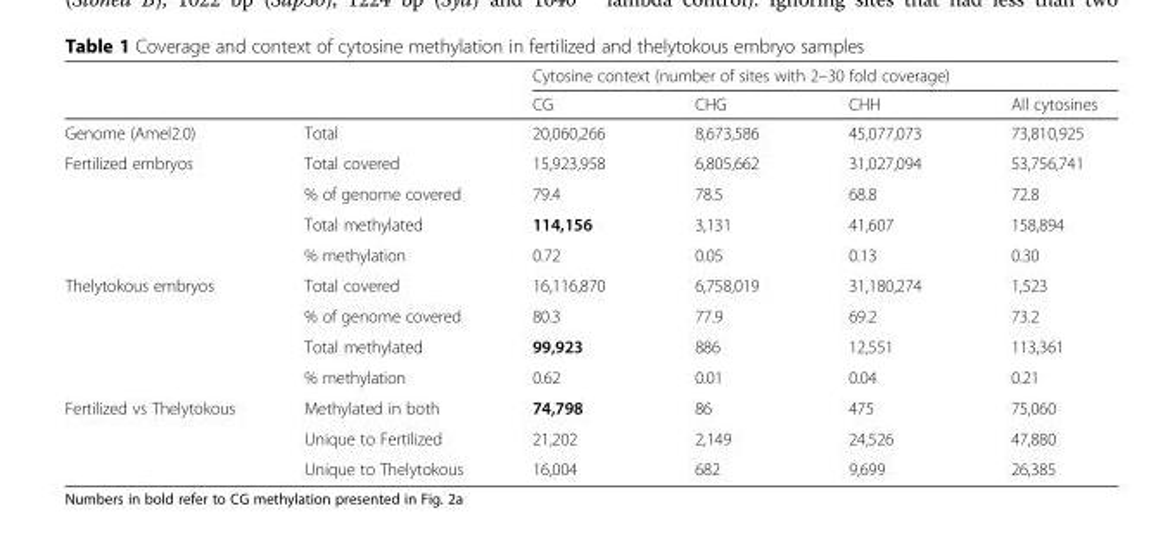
<table><thead><tr><td rowspan="2"></td><td rowspan="2"></td><td colspan="4">Cytosine context (number of sites with 2–30 fold coverage)</td></tr><tr><td>CG</td><td>CHG</td><td>CHH</td><td>All cytosines</td></tr></thead><tbody><tr><td>Genome (Amel2.0)</td><td>Total</td><td>20,060,266</td><td>8,673,586</td><td>45,077,073</td><td>73,810,925</td></tr><tr><td rowspan="4">Fertilized embryos</td><td>Total covered</td><td>15,923,958</td><td>6,805,662</td><td>31,027,094</td><td>53,756,741</td></tr><tr><td>% of genome covered</td><td>79.4</td><td>78.5</td><td>68.8</td><td>72.8</td></tr><tr><td>Total methylated</td><td>114,156</td><td>3,131</td><td>41,607</td><td>158,894</td></tr><tr><td>% methylation</td><td>0.72</td><td>0.05</td><td>0.13</td><td>0.30</td></tr><tr><td rowspan="4">Thelytokous embryos</td><td>Total covered</td><td>16,116,870</td><td>6,758,019</td><td>31,180,274</td><td>1,523</td></tr><tr><td>% of genome covered</td><td>80.3</td><td>77.9</td><td>69.2</td><td>73.2</td></tr><tr><td>Total methylated</td><td>99,923</td><td>886</td><td>12,551</td><td>113,361</td></tr><tr><td>% methylation</td><td>0.62</td><td>0.01</td><td>0.04</td><td>0.21</td></tr><tr><td rowspan="3">Fertilized vs Thelytokous</td><td>Methylated in both</td><td>74,798</td><td>86</td><td>475</td><td>75,060</td></tr><tr><td>Unique to Fertilized</td><td>21,202</td><td>2,149</td><td>24,526</td><td>47,880</td></tr><tr><td>Unique to Thelytokous</td><td>16,004</td><td>682</td><td>9,699</td><td>26,385</td></tr></tbody></table>